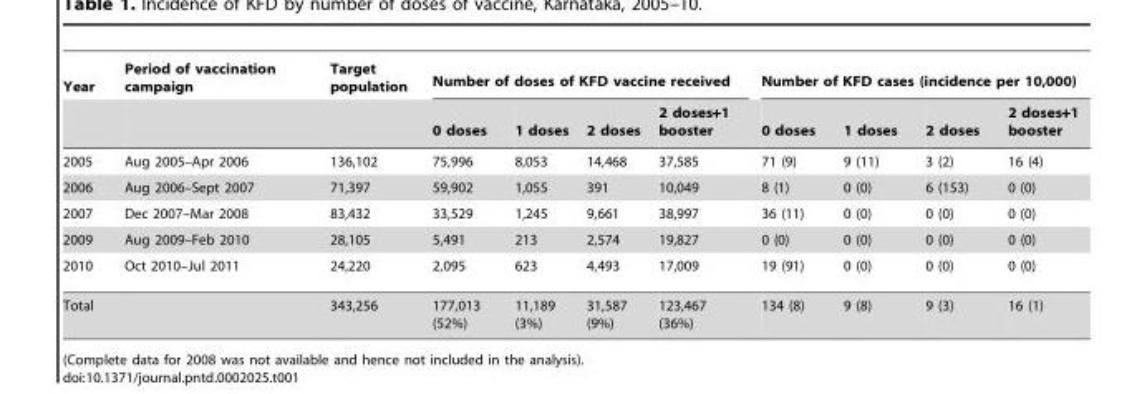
<table><thead><tr><td rowspan="2">Year</td><td rowspan="2">Period of vaccination campaign</td><td rowspan="2">Target population</td><td colspan="4">Number of doses of KFD vaccine received</td><td colspan="4">Number of KFD cases (incidence per 10,000)</td></tr><tr><td>0 doses</td><td>1 doses</td><td>2 doses</td><td>2 doses+1 booster</td><td>0 doses</td><td>1 doses</td><td>2 doses</td><td>2 doses+1 booster</td></tr></thead><tbody><tr><td>2005</td><td>Aug 2005–Apr 2006</td><td>136,102</td><td>75,996</td><td>8,053</td><td>14,468</td><td>37,585</td><td>71 (9)</td><td>9 (11)</td><td>3 (2)</td><td>16 (4)</td></tr><tr><td>2006</td><td>Aug 2006–Sept 2007</td><td>71,397</td><td>59,902</td><td>1,055</td><td>391</td><td>10,049</td><td>8 (1)</td><td>0 (0)</td><td>6 (153)</td><td>0 (0)</td></tr><tr><td>2007</td><td>Dec 2007–Mar 2008</td><td>83,432</td><td>33,529</td><td>1,245</td><td>9,661</td><td>38,997</td><td>36 (11)</td><td>0 (0)</td><td>0 (0)</td><td>0 (0)</td></tr><tr><td>2009</td><td>Aug 2009–Feb 2010</td><td>28,105</td><td>5,491</td><td>213</td><td>2,574</td><td>19,827</td><td>0 (0)</td><td>0 (0)</td><td>0 (0)</td><td>0 (0)</td></tr><tr><td>2010</td><td>Oct 2010–Jul 2011</td><td>24,220</td><td>2,095</td><td>623</td><td>4,493</td><td>17,009</td><td>19 (91)</td><td>0 (0)</td><td>0 (0)</td><td>0 (0)</td></tr><tr><td colspan="2">Total</td><td>343,256</td><td>177,013 (52%)</td><td>11,189 (3%)</td><td>31,587 (9%)</td><td>123,467 (36%)</td><td>134 (8)</td><td>9 (8)</td><td>9 (3)</td><td>16 (1)</td></tr></tbody></table>